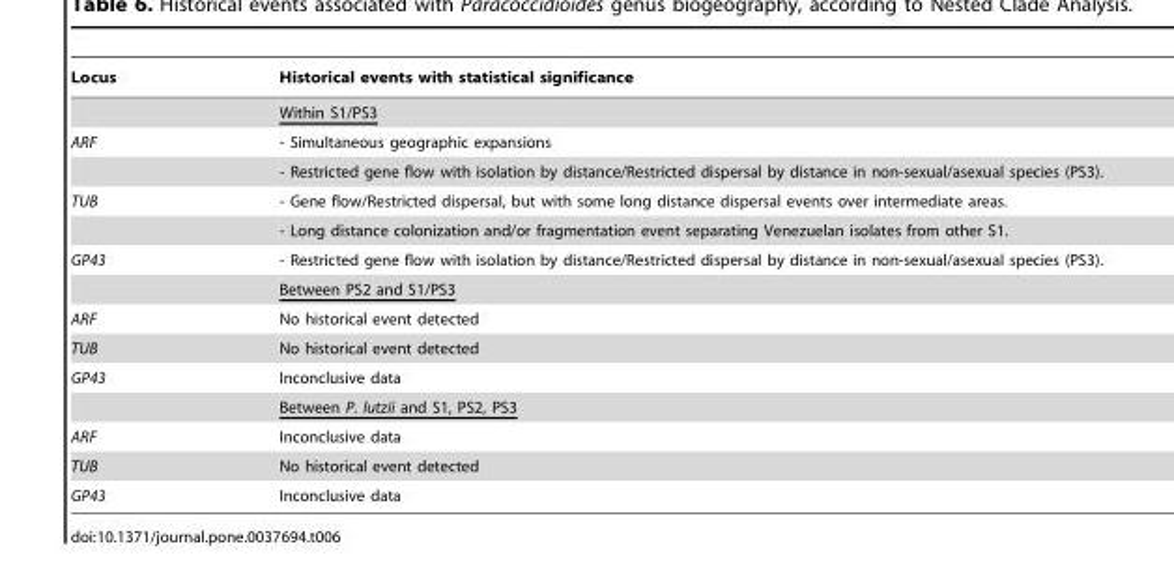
<table><thead><tr><td>Locus</td><td>Historical events with statistical significance</td></tr></thead><tbody><tr><td></td><td>Within S1/PS3</td></tr><tr><td rowspan="2">ARF</td><td>- Simultaneous geographic expansions</td></tr><tr><td>- Restricted gene flow with isolation by distance/Restricted dispersal by distance in non-sexual/asexual species (PS3).</td></tr><tr><td rowspan="2">TUB</td><td>- Gene flow/Restricted dispersal, but with some long distance dispersal events over intermediate areas.</td></tr><tr><td>- Long distance colonization and/or fragmentation event separating Venezuelan isolates from other S1.</td></tr><tr><td rowspan="2">GP43</td><td>- Restricted gene flow with isolation by distance/Restricted dispersal by distance in non-sexual/asexual species (PS3).</td></tr><tr><td>Between PS2 and S1/PS3</td></tr><tr><td>ARF</td><td>No historical event detected</td></tr><tr><td>TUB</td><td>No historical event detected</td></tr><tr><td rowspan="2">GP43</td><td>Inconclusive data</td></tr><tr><td>Between P. lutzii and S1, PS2, PS3</td></tr><tr><td>ARF</td><td>Inconclusive data</td></tr><tr><td>TUB</td><td>No historical event detected</td></tr><tr><td>GP43</td><td>Inconclusive data</td></tr></tbody></table>